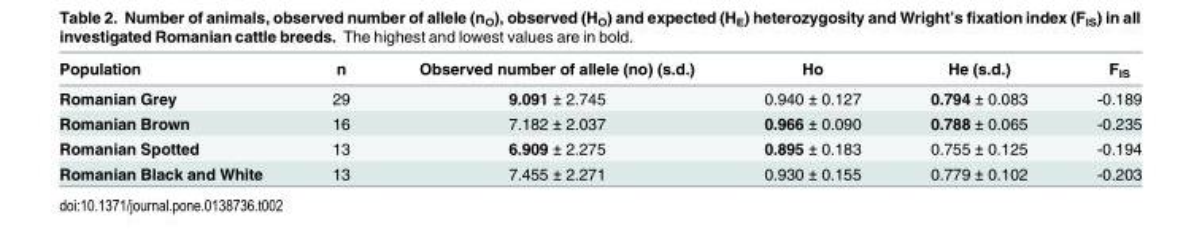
<table><thead><tr><td>Population</td><td>n</td><td>Observed number of allele (no) (s.d.)</td><td>Ho</td><td>He (s.d.)</td><td>F<sub>IS</sub></td></tr></thead><tbody><tr><td>Romanian Grey</td><td>29</td><td>9.091 ± 2.745</td><td>0.940 ± 0.127</td><td>0.794 ± 0.083</td><td>-0.189</td></tr><tr><td>Romanian Brown</td><td>16</td><td>7.182 ± 2.037</td><td>0.966 ± 0.090</td><td>0.788 ± 0.065</td><td>-0.235</td></tr><tr><td>Romanian Spotted</td><td>13</td><td>6.909 ± 2.275</td><td>0.895 ± 0.183</td><td>0.755 ± 0.125</td><td>-0.194</td></tr><tr><td>Romanian Black and White</td><td>13</td><td>7.455 ± 2.271</td><td>0.930 ± 0.155</td><td>0.779 ± 0.102</td><td>-0.203</td></tr></tbody></table>